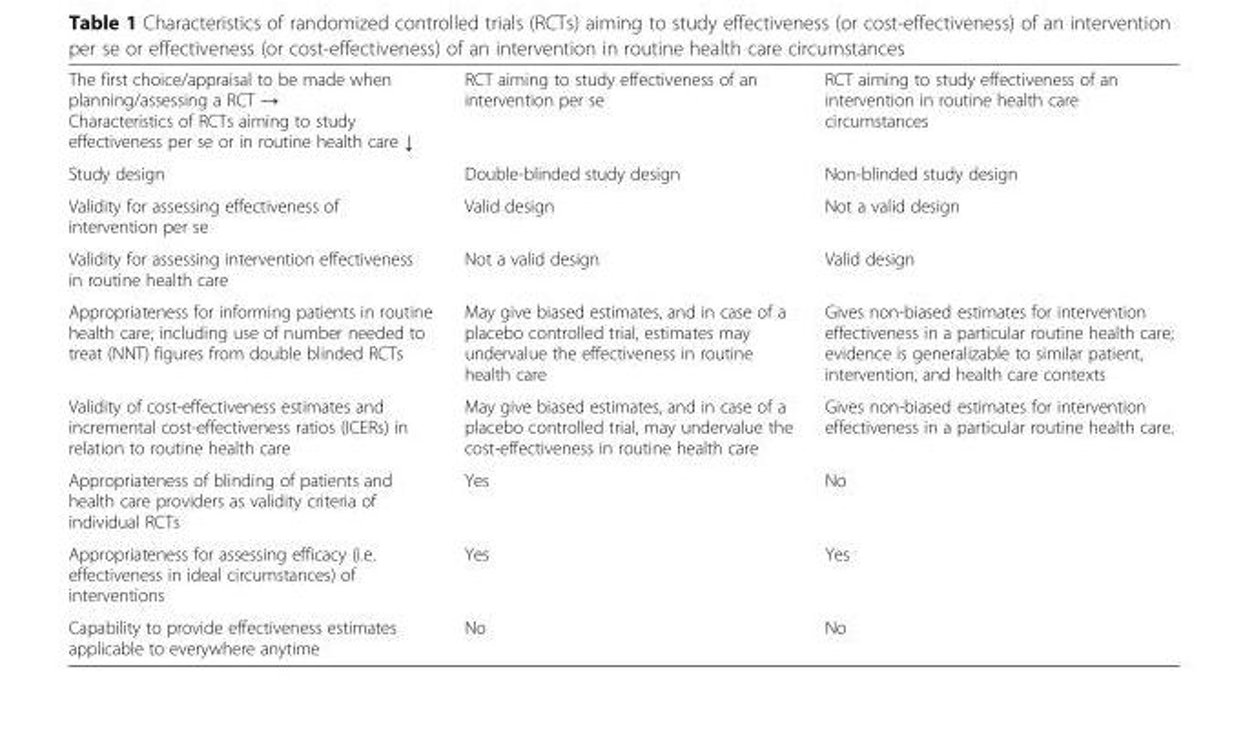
<table><tbody><tr><td>The first choice/appraisal to be made when planning/assessing a RCT → Characteristics of RCTs aiming to study effectiveness per se or in routine health care ↓</td><td>RCT aiming to study effectiveness of an intervention per se</td><td>RCT aiming to study effectiveness of an intervention in routine health care circumstances</td></tr><tr><td>Study design</td><td>Double-blinded study design</td><td>Non-blinded study design</td></tr><tr><td>Validity for assessing effectiveness of intervention per se</td><td>Valid design</td><td>Not a valid design</td></tr><tr><td>Validity for assessing intervention effectiveness in routine health care</td><td>Not a valid design</td><td>Valid design</td></tr><tr><td>Appropriateness for informing patients in routine health care; including use of number needed to treat (NNT) figures from double blinded RCTs</td><td>May give biased estimates, and in case of a placebo controlled trial, estimates may undervalue the effectiveness in routine health care</td><td>Gives non-biased estimates for intervention effectiveness in a particular routine health care; evidence is generalizable to similar patient, intervention, and health care contexts</td></tr><tr><td>Validity of cost-effectiveness estimates and incremental cost-effectiveness ratios (ICERs) in relation to routine health care</td><td>May give biased estimates, and in case of a placebo controlled trial, may undervalue the cost-effectiveness in routine health care</td><td>Gives non-biased estimates for intervention effectiveness in a particular routine health care.</td></tr><tr><td>Appropriateness of blinding of patients and health care providers as validity criteria of individual RCTs</td><td>Yes</td><td>No</td></tr><tr><td>Appropriateness for assessing efficacy (i.e. effectiveness in ideal circumstances) of interventions</td><td>Yes</td><td>Yes</td></tr><tr><td>Capability to provide effectiveness estimates applicable to everywhere anytime</td><td>No</td><td>No</td></tr></tbody></table>